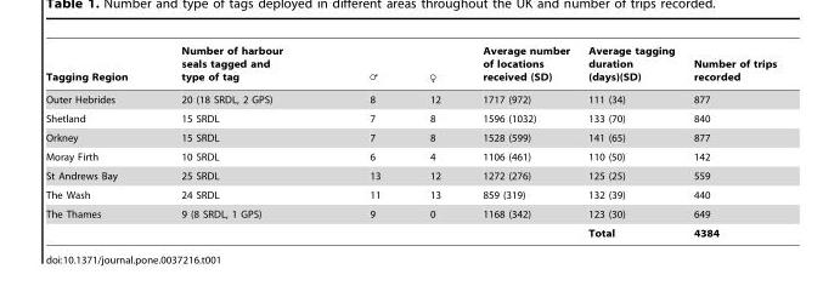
<table><thead><tr><td>Tagging Region</td><td>Number of harbour seals tagged and type of tag</td><td>=</td><td>♀</td><td>Average number of locations received (SD)</td><td>Average tagging duration (days)(SD)</td><td>Number of trips recorded</td></tr></thead><tbody><tr><td>Outer Hebrides</td><td>20 (18 SRDL, 2 GPS)</td><td>8</td><td>12</td><td>1717 (972)</td><td>111 (34)</td><td>877</td></tr><tr><td>Shetland</td><td>15 SRDL</td><td>7</td><td>8</td><td>1596 (1032)</td><td>133 (70)</td><td>840</td></tr><tr><td>Orkney</td><td>15 SRDL</td><td>7</td><td>8</td><td>1528 (599)</td><td>141 (65)</td><td>877</td></tr><tr><td>Moray Firth</td><td>10 SRDL</td><td>6</td><td>4</td><td>1106 (461)</td><td>110 (50)</td><td>142</td></tr><tr><td>St Andrews Bay</td><td>25 SRDL</td><td>13</td><td>12</td><td>1272 (276)</td><td>125 (25)</td><td>559</td></tr><tr><td>The Wash</td><td>24 SRDL</td><td>11</td><td>13</td><td>859 (319)</td><td>132 (39)</td><td>440</td></tr><tr><td rowspan="2">The Thames</td><td>9 (8 SRDL, 1 GPS)</td><td>9</td><td>0</td><td>1168 (342)</td><td>123 (30)</td><td>649</td></tr><tr><td></td><td></td><td></td><td></td><td>Total</td><td>4384</td></tr></tbody></table>